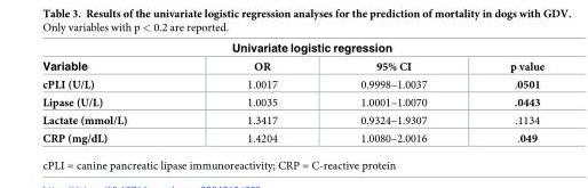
<table><thead><tr><td colspan="4">Univariate logistic regression</td></tr><tr><td>Variable</td><td>OR</td><td>95% CI</td><td>p value</td></tr></thead><tbody><tr><td>cPLI (U/L)</td><td>1.0017</td><td>0.9998–1.0037</td><td>.0501</td></tr><tr><td>Lipase (U/L)</td><td>1.0035</td><td>1.0001–1.0070</td><td>.0443</td></tr><tr><td>Lactate (mmol/L)</td><td>1.3417</td><td>0.9324–1.9307</td><td>.1134</td></tr><tr><td>CRP (mg/dL)</td><td>1.4204</td><td>1.0080–2.0016</td><td>.049</td></tr></tbody></table>